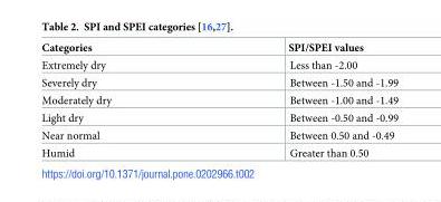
<table><thead><tr><td>Categories</td><td>SPI/SPEI values</td></tr></thead><tbody><tr><td>Extremely dry</td><td>Less than -2.00</td></tr><tr><td>Severely dry</td><td>Between -1.50 and -1.99</td></tr><tr><td>Moderately dry</td><td>Between -1.00 and -1.49</td></tr><tr><td>Light dry</td><td>Between -0.50 and -0.99</td></tr><tr><td>Near normal</td><td>Between 0.50 and -0.49</td></tr><tr><td>Humid</td><td>Greater than 0.50</td></tr></tbody></table>